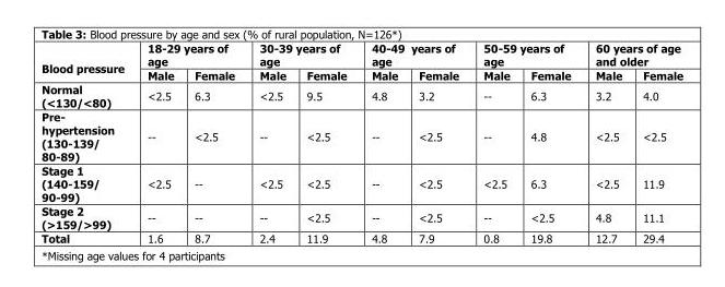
<table><thead><tr><td rowspan="2">Blood pressure</td><td colspan="2">18-29 years of age</td><td colspan="2">30-39 years of age</td><td colspan="2">40-49 years of age</td><td colspan="2">50-59 years of age</td><td colspan="2">60 years of age and older</td></tr><tr><td>Male</td><td>Female</td><td>Male</td><td>Female</td><td>Male</td><td>Female</td><td>Male</td><td>Female</td><td>Male</td><td>Female</td></tr></thead><tbody><tr><td>Normal (&lt;130/&lt;80)</td><td>&lt;2.5</td><td>6.3</td><td>&lt;2.5</td><td>9.5</td><td>4.8</td><td>3.2</td><td>--</td><td>6.3</td><td>3.2</td><td>4.0</td></tr><tr><td>Pre- hypertension (130-139/ 80-89)</td><td>--</td><td>&lt;2.5</td><td>--</td><td>&lt;2.5</td><td>--</td><td>&lt;2.5</td><td>--</td><td>4.8</td><td>&lt;2.5</td><td>&lt;2.5</td></tr><tr><td>Stage 1 (140-159/ 90-99)</td><td>&lt;2.5</td><td>--</td><td>&lt;2.5</td><td>&lt;2.5</td><td>--</td><td>&lt;2.5</td><td>&lt;2.5</td><td>6.3</td><td>&lt;2.5</td><td>11.9</td></tr><tr><td>Stage 2 (&gt;159/&gt;99)</td><td>--</td><td>--</td><td>--</td><td>&lt;2.5</td><td>--</td><td>&lt;2.5</td><td>--</td><td>&lt;2.5</td><td>4.8</td><td>11.1</td></tr><tr><td>Total</td><td>1.6</td><td>8.7</td><td>2.4</td><td>11.9</td><td>4.8</td><td>7.9</td><td>0.8</td><td>19.8</td><td>12.7</td><td>29.4</td></tr></tbody></table>